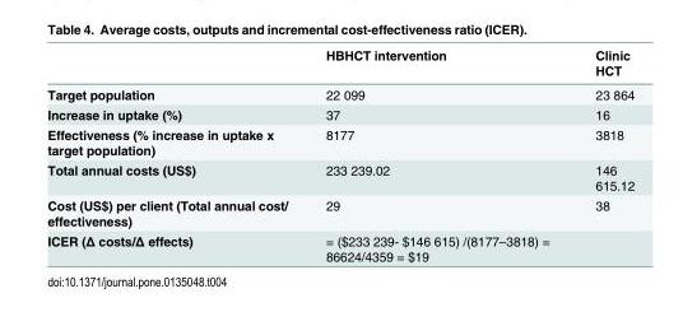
<table><thead><tr><td></td><td>HBHCT intervention</td><td>Clinic HCT</td></tr></thead><tbody><tr><td>Target population</td><td>22 099</td><td>23 864</td></tr><tr><td>Increase in uptake (%)</td><td>37</td><td>16</td></tr><tr><td>Effectiveness (% increase in uptake x target population)</td><td>8177</td><td>3818</td></tr><tr><td>Total annual costs (US$)</td><td>233 239.02</td><td>146 615.12</td></tr><tr><td>Cost (US$) per client (Total annual cost/ effectiveness)</td><td>29</td><td>38</td></tr><tr><td>ICER (Δ costs/Δ effects)</td><td>= ($233 239- $146 615) /(8177–3818) = 86624/4359 = $19</td><td></td></tr></tbody></table>